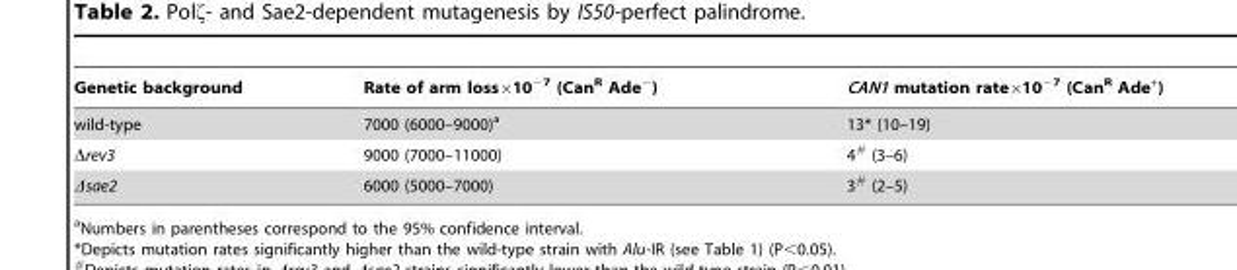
<table><thead><tr><td>Genetic background</td><td>Rate of arm loss×10<sup>−7</sup> (Can<sup>R</sup> Ade<sup>−</sup>)</td><td>CAN1 mutation rate×10<sup>−7</sup> (Can<sup>R</sup> Ade<sup>+</sup>)</td></tr></thead><tbody><tr><td>wild-type</td><td>7000 (6000–9000)<sup>a</sup></td><td>13* (10–19)</td></tr><tr><td>Δrev3</td><td>9000 (7000–11000)</td><td>4# (3–6)</td></tr><tr><td>Δsae2</td><td>6000 (5000–7000)</td><td>3# (2–5)</td></tr></tbody></table>